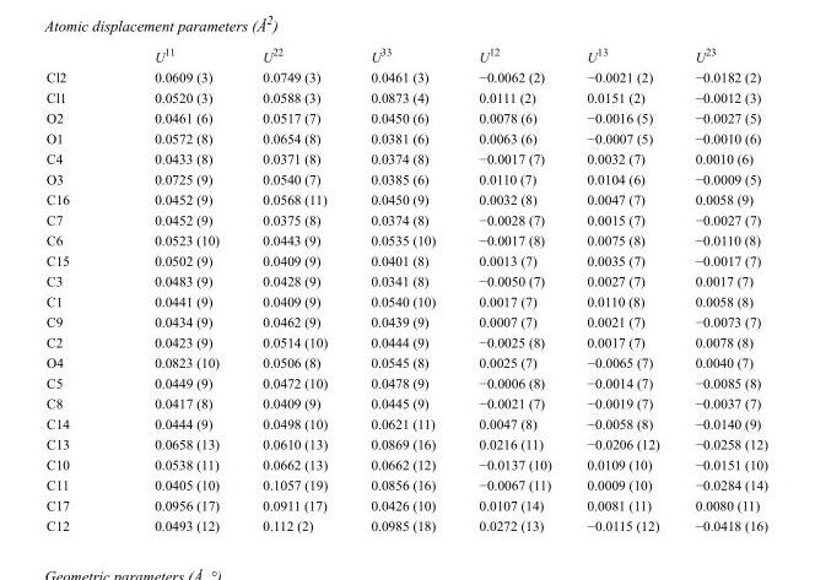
<table><thead><tr><td></td><td>U<sup>11</sup></td><td>U<sup>22</sup></td><td>U<sup>33</sup></td><td>U<sup>12</sup></td><td>U<sup>13</sup></td><td>U<sup>23</sup></td></tr></thead><tbody><tr><td>Cl2</td><td>0.0609 (3)</td><td>0.0749 (3)</td><td>0.0461 (3)</td><td>−0.0062 (2)</td><td>−0.0021 (2)</td><td>−0.0182 (2)</td></tr><tr><td>Cl1</td><td>0.0520 (3)</td><td>0.0588 (3)</td><td>0.0873 (4)</td><td>0.0111 (2)</td><td>0.0151 (2)</td><td>−0.0012 (3)</td></tr><tr><td>O2</td><td>0.0461 (6)</td><td>0.0517 (7)</td><td>0.0450 (6)</td><td>0.0078 (6)</td><td>−0.0016 (5)</td><td>−0.0027 (5)</td></tr><tr><td>O1</td><td>0.0572 (8)</td><td>0.0654 (8)</td><td>0.0381 (6)</td><td>0.0063 (6)</td><td>−0.0007 (5)</td><td>−0.0010 (6)</td></tr><tr><td>C4</td><td>0.0433 (8)</td><td>0.0371 (8)</td><td>0.0374 (8)</td><td>−0.0017 (7)</td><td>0.0032 (7)</td><td>0.0010 (6)</td></tr><tr><td>O3</td><td>0.0725 (9)</td><td>0.0540 (7)</td><td>0.0385 (6)</td><td>0.0110 (7)</td><td>0.0104 (6)</td><td>−0.0009 (5)</td></tr><tr><td>C16</td><td>0.0452 (9)</td><td>0.0568 (11)</td><td>0.0450 (9)</td><td>0.0032 (8)</td><td>0.0047 (7)</td><td>0.0058 (9)</td></tr><tr><td>C7</td><td>0.0452 (9)</td><td>0.0375 (8)</td><td>0.0374 (8)</td><td>−0.0028 (7)</td><td>0.0015 (7)</td><td>−0.0027 (7)</td></tr><tr><td>C6</td><td>0.0523 (10)</td><td>0.0443 (9)</td><td>0.0535 (10)</td><td>−0.0017 (8)</td><td>0.0075 (8)</td><td>−0.0110 (8)</td></tr><tr><td>C15</td><td>0.0502 (9)</td><td>0.0409 (9)</td><td>0.0401 (8)</td><td>0.0013 (7)</td><td>0.0035 (7)</td><td>−0.0017 (7)</td></tr><tr><td>C3</td><td>0.0483 (9)</td><td>0.0428 (9)</td><td>0.0341 (8)</td><td>−0.0050 (7)</td><td>0.0027 (7)</td><td>0.0017 (7)</td></tr><tr><td>C1</td><td>0.0441 (9)</td><td>0.0409 (9)</td><td>0.0540 (10)</td><td>0.0017 (7)</td><td>0.0110 (8)</td><td>0.0058 (8)</td></tr><tr><td>C9</td><td>0.0434 (9)</td><td>0.0462 (9)</td><td>0.0439 (9)</td><td>0.0007 (7)</td><td>0.0021 (7)</td><td>−0.0073 (7)</td></tr><tr><td>C2</td><td>0.0423 (9)</td><td>0.0514 (10)</td><td>0.0444 (9)</td><td>−0.0025 (8)</td><td>0.0017 (7)</td><td>0.0078 (8)</td></tr><tr><td>O4</td><td>0.0823 (10)</td><td>0.0506 (8)</td><td>0.0545 (8)</td><td>0.0025 (7)</td><td>−0.0065 (7)</td><td>0.0040 (7)</td></tr><tr><td>C5</td><td>0.0449 (9)</td><td>0.0472 (10)</td><td>0.0478 (9)</td><td>−0.0006 (8)</td><td>−0.0014 (7)</td><td>−0.0085 (8)</td></tr><tr><td>C8</td><td>0.0417 (8)</td><td>0.0409 (9)</td><td>0.0445 (9)</td><td>−0.0021 (7)</td><td>−0.0019 (7)</td><td>−0.0037 (7)</td></tr><tr><td>C14</td><td>0.0444 (9)</td><td>0.0498 (10)</td><td>0.0621 (11)</td><td>0.0047 (8)</td><td>−0.0058 (8)</td><td>−0.0140 (9)</td></tr><tr><td>C13</td><td>0.0658 (13)</td><td>0.0610 (13)</td><td>0.0869 (16)</td><td>0.0216 (11)</td><td>−0.0206 (12)</td><td>−0.0258 (12)</td></tr><tr><td>C10</td><td>0.0538 (11)</td><td>0.0662 (13)</td><td>0.0662 (12)</td><td>−0.0137 (10)</td><td>0.0109 (10)</td><td>−0.0151 (10)</td></tr><tr><td>C11</td><td>0.0405 (10)</td><td>0.1057 (19)</td><td>0.0856 (16)</td><td>−0.0067 (11)</td><td>0.0009 (10)</td><td>−0.0284 (14)</td></tr><tr><td>C17</td><td>0.0956 (17)</td><td>0.0911 (17)</td><td>0.0426 (10)</td><td>0.0107 (14)</td><td>0.0081 (11)</td><td>0.0080 (11)</td></tr><tr><td>C12</td><td>0.0493 (12)</td><td>0.112 (2)</td><td>0.0985 (18)</td><td>0.0272 (13)</td><td>−0.0115 (12)</td><td>−0.0418 (16)</td></tr></tbody></table>